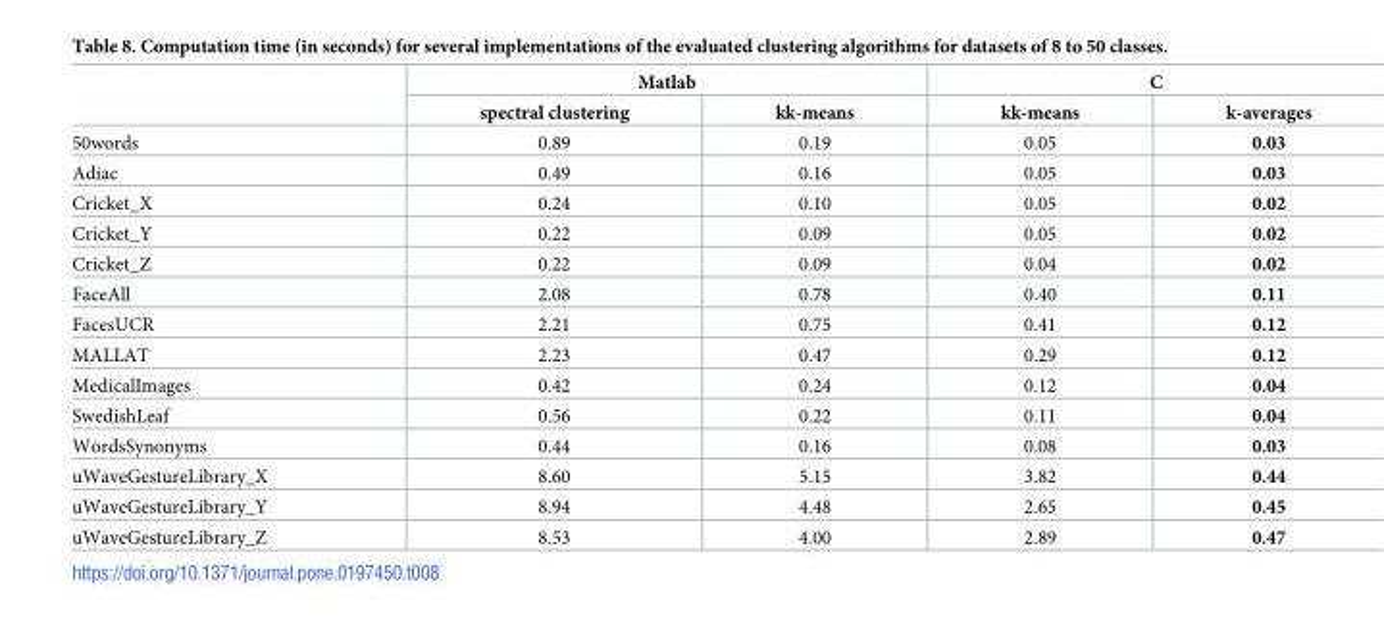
<table><thead><tr><td rowspan="2"></td><td colspan="2">Matlab</td><td colspan="2">C</td></tr><tr><td>spectral clustering</td><td>kk-means</td><td>kk-means</td><td>k-averages</td></tr></thead><tbody><tr><td>50words</td><td>0.89</td><td>0.19</td><td>0.05</td><td>0.03</td></tr><tr><td>Adiac</td><td>0.49</td><td>0.16</td><td>0.05</td><td>0.03</td></tr><tr><td>Cricket_X</td><td>0.24</td><td>0.10</td><td>0.05</td><td>0.02</td></tr><tr><td>Cricket_Y</td><td>0.22</td><td>0.09</td><td>0.05</td><td>0.02</td></tr><tr><td>Cricket_Z</td><td>0.22</td><td>0.09</td><td>0.04</td><td>0.02</td></tr><tr><td>FaceAll</td><td>2.08</td><td>0.78</td><td>0.40</td><td>0.11</td></tr><tr><td>FacesUCR</td><td>2.21</td><td>0.75</td><td>0.41</td><td>0.12</td></tr><tr><td>MALLAT</td><td>2.23</td><td>0.47</td><td>0.29</td><td>0.12</td></tr><tr><td>MedicalImages</td><td>0.42</td><td>0.24</td><td>0.12</td><td>0.04</td></tr><tr><td>SwedishLeaf</td><td>0.56</td><td>0.22</td><td>0.11</td><td>0.04</td></tr><tr><td>WordsSynonyms</td><td>0.44</td><td>0.16</td><td>0.08</td><td>0.03</td></tr><tr><td>uWaveGestureLibrary_X</td><td>8.60</td><td>5.15</td><td>3.82</td><td>0.44</td></tr><tr><td>uWaveGestureLibrary_Y</td><td>8.94</td><td>4.48</td><td>2.65</td><td>0.45</td></tr><tr><td>uWaveGestureLibrary_Z</td><td>8.53</td><td>4.00</td><td>2.89</td><td>0.47</td></tr></tbody></table>